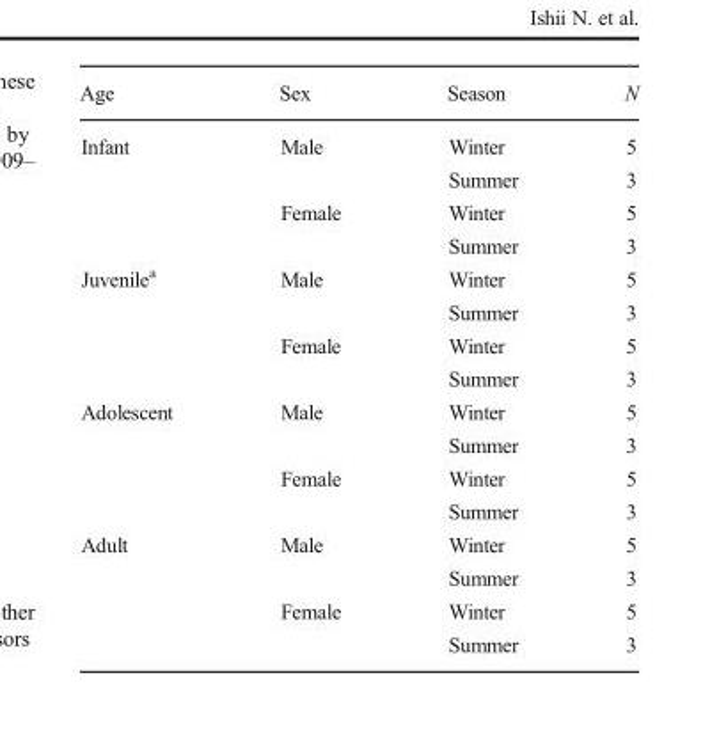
<table><thead><tr><td>Age</td><td>Sex</td><td>Season</td><td>N</td></tr></thead><tbody><tr><td rowspan="4">Infant</td><td rowspan="2">Male</td><td>Winter</td><td>5</td></tr><tr><td>Summer</td><td>3</td></tr><tr><td rowspan="2">Female</td><td>Winter</td><td>5</td></tr><tr><td>Summer</td><td>3</td></tr><tr><td rowspan="4">Juvenile<sup>a</sup></td><td rowspan="2">Male</td><td>Winter</td><td>5</td></tr><tr><td>Summer</td><td>3</td></tr><tr><td rowspan="2">Female</td><td>Winter</td><td>5</td></tr><tr><td>Summer</td><td>3</td></tr><tr><td rowspan="4">Adolescent</td><td rowspan="2">Male</td><td>Winter</td><td>5</td></tr><tr><td>Summer</td><td>3</td></tr><tr><td rowspan="2">Female</td><td>Winter</td><td>5</td></tr><tr><td>Summer</td><td>3</td></tr><tr><td rowspan="4">Adult</td><td rowspan="2">Male</td><td>Winter</td><td>5</td></tr><tr><td>Summer</td><td>3</td></tr><tr><td rowspan="2">Female</td><td>Winter</td><td>5</td></tr><tr><td>Summer</td><td>3</td></tr></tbody></table>